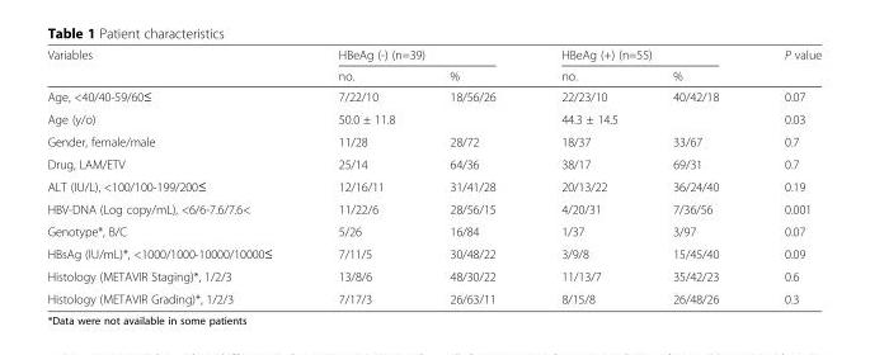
<table><thead><tr><td rowspan="2">Variables</td><td colspan="2">HBeAg (-) (n=39)</td><td colspan="2">HBeAg (+) (n=55)</td><td rowspan="2">P value</td></tr><tr><td>no.</td><td>%</td><td>no.</td><td>%</td></tr></thead><tbody><tr><td>Age, &lt;40/40-59/60≤</td><td>7/22/10</td><td>18/56/26</td><td>22/23/10</td><td>40/42/18</td><td>0.07</td></tr><tr><td>Age (y/o)</td><td colspan="2">50.0 ± 11.8</td><td colspan="2">44.3 ± 14.5</td><td>0.03</td></tr><tr><td>Gender, female/male</td><td>11/28</td><td>28/72</td><td>18/37</td><td>33/67</td><td>0.7</td></tr><tr><td>Drug, LAM/ETV</td><td>25/14</td><td>64/36</td><td>38/17</td><td>69/31</td><td>0.7</td></tr><tr><td>ALT (IU/L), &lt;100/100-199/200≤</td><td>12/16/11</td><td>31/41/28</td><td>20/13/22</td><td>36/24/40</td><td>0.19</td></tr><tr><td>HBV-DNA (Log copy/mL), &lt;6/6-7.6/7.6&lt;</td><td>11/22/6</td><td>28/56/15</td><td>4/20/31</td><td>7/36/56</td><td>0.001</td></tr><tr><td>Genotype*, B/C</td><td>5/26</td><td>16/84</td><td>1/37</td><td>3/97</td><td>0.07</td></tr><tr><td>HBsAg (IU/mL)*, &lt;1000/1000-10000/10000≤</td><td>7/11/5</td><td>30/48/22</td><td>3/9/8</td><td>15/45/40</td><td>0.09</td></tr><tr><td>Histology (METAVIR Staging)*, 1/2/3</td><td>13/8/6</td><td>48/30/22</td><td>11/13/7</td><td>35/42/23</td><td>0.6</td></tr><tr><td>Histology (METAVIR Grading)*, 1/2/3</td><td>7/17/3</td><td>26/63/11</td><td>8/15/8</td><td>26/48/26</td><td>0.3</td></tr></tbody></table>